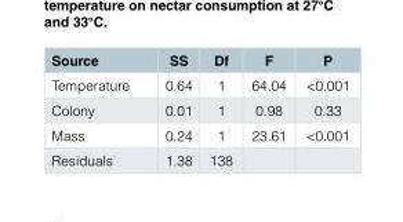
<table><thead><tr><td>Source</td><td>SS</td><td>Df</td><td>F</td><td>P</td></tr></thead><tbody><tr><td>Temperature</td><td>0.64</td><td>1</td><td>64.04</td><td>&lt;0.001</td></tr><tr><td>Colony</td><td>0.01</td><td>1</td><td>0.98</td><td>0.33</td></tr><tr><td>Mass</td><td>0.24</td><td>1</td><td>23.61</td><td>&lt;0.001</td></tr><tr><td>Residuals</td><td>1.38</td><td>138</td><td></td><td></td></tr></tbody></table>